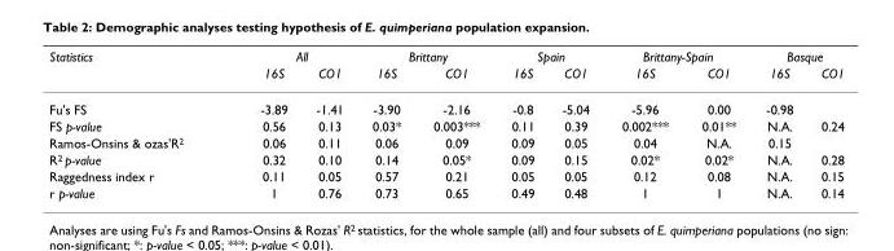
<table><thead><tr><td rowspan="2">Statistics</td><td colspan="2">All</td><td colspan="2">Brittany</td><td colspan="2">Spain</td><td colspan="2">Brittany-Spain</td><td colspan="2">Basque</td></tr><tr><td>16S</td><td>CO1</td><td>16S</td><td>CO1</td><td>16S</td><td>CO1</td><td>16S</td><td>CO1</td><td>16S</td><td>CO1</td></tr></thead><tbody><tr><td>Fu&#x27;s FS</td><td>-3.89</td><td>-1.41</td><td>-3.90</td><td>-2.16</td><td>-0.8</td><td>-5.04</td><td>-5.96</td><td>0.00</td><td>-0.98</td><td></td></tr><tr><td>FS p-value</td><td>0.56</td><td>0.13</td><td>0.03*</td><td>0.003***</td><td>0.11</td><td>0.39</td><td>0.002***</td><td>0.01**</td><td>N.A.</td><td>0.24</td></tr><tr><td>Ramos-Onsins &amp; ozas&#x27;R<sup>2</sup></td><td>0.06</td><td>0.11</td><td>0.06</td><td>0.09</td><td>0.09</td><td>0.05</td><td>0.04</td><td>N.A.</td><td>0.15</td><td></td></tr><tr><td>R<sup>2</sup> p-value</td><td>0.32</td><td>0.10</td><td>0.14</td><td>0.05*</td><td>0.09</td><td>0.15</td><td>0.02*</td><td>0.02*</td><td>N.A.</td><td>0.28</td></tr><tr><td>Raggedness index r</td><td>0.11</td><td>0.05</td><td>0.57</td><td>0.21</td><td>0.05</td><td>0.05</td><td>0.12</td><td>0.08</td><td>N.A.</td><td>0.15</td></tr><tr><td>r p-value</td><td>1</td><td>0.76</td><td>0.73</td><td>0.65</td><td>0.49</td><td>0.48</td><td>1</td><td>1</td><td>N.A.</td><td>0.14</td></tr></tbody></table>